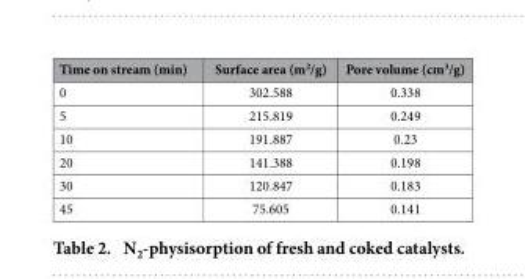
<table><thead><tr><td>Time on stream (min)</td><td>Surface area (m<sup>2</sup>/g)</td><td>Pore volume (cm<sup>3</sup>/g)</td></tr></thead><tbody><tr><td>0</td><td>302.588</td><td>0.338</td></tr><tr><td>5</td><td>215.819</td><td>0.249</td></tr><tr><td>10</td><td>191.887</td><td>0.23</td></tr><tr><td>20</td><td>141.388</td><td>0.198</td></tr><tr><td>30</td><td>120.847</td><td>0.183</td></tr><tr><td>45</td><td>75.605</td><td>0.141</td></tr></tbody></table>